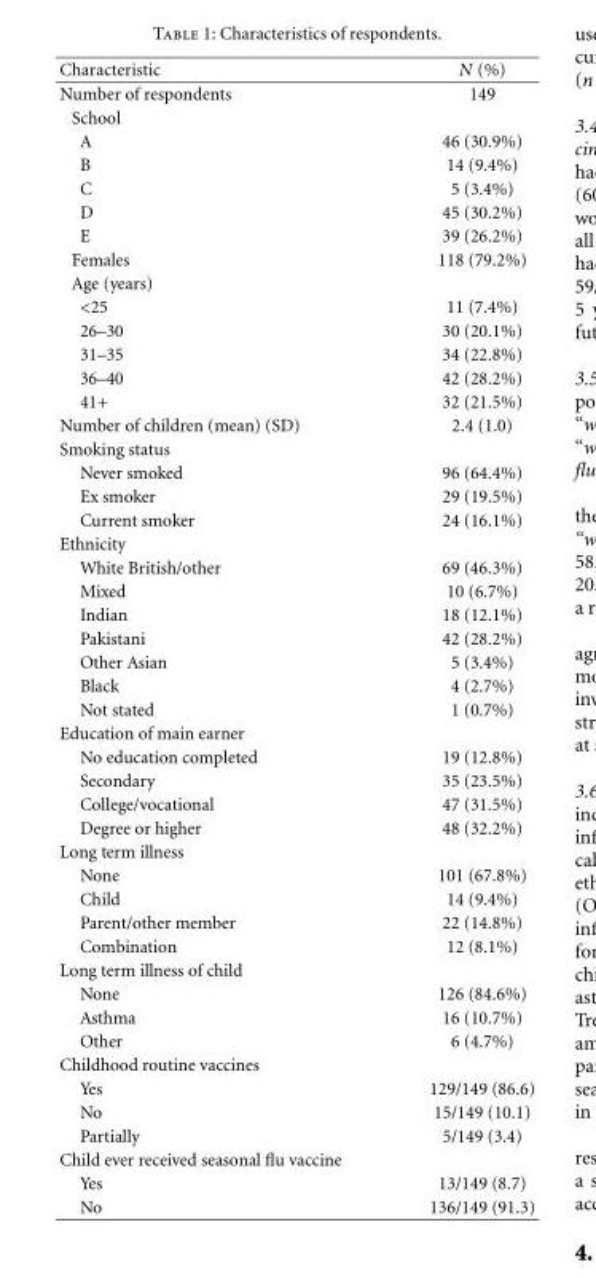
<table><thead><tr><td>Characteristic</td><td>N (%)</td></tr></thead><tbody><tr><td>Number of respondents</td><td>149</td></tr><tr><td colspan="2">School</td></tr><tr><td>A</td><td>46 (30.9%)</td></tr><tr><td>B</td><td>14 (9.4%)</td></tr><tr><td>C</td><td>5 (3.4%)</td></tr><tr><td>D</td><td>45 (30.2%)</td></tr><tr><td>E</td><td>39 (26.2%)</td></tr><tr><td>Females</td><td>118 (79.2%)</td></tr><tr><td colspan="2">Age (years)</td></tr><tr><td>&lt;25</td><td>11 (7.4%)</td></tr><tr><td>26–30</td><td>30 (20.1%)</td></tr><tr><td>31–35</td><td>34 (22.8%)</td></tr><tr><td>36–40</td><td>42 (28.2%)</td></tr><tr><td>41+</td><td>32 (21.5%)</td></tr><tr><td>Number of children (mean) (SD)</td><td>2.4 (1.0)</td></tr><tr><td colspan="2">Smoking status</td></tr><tr><td>Never smoked</td><td>96 (64.4%)</td></tr><tr><td>Ex smoker</td><td>29 (19.5%)</td></tr><tr><td>Current smoker</td><td>24 (16.1%)</td></tr><tr><td colspan="2">Ethnicity</td></tr><tr><td>White British/other</td><td>69 (46.3%)</td></tr><tr><td>Mixed</td><td>10 (6.7%)</td></tr><tr><td>Indian</td><td>18 (12.1%)</td></tr><tr><td>Pakistani</td><td>42 (28.2%)</td></tr><tr><td>Other Asian</td><td>5 (3.4%)</td></tr><tr><td>Black</td><td>4 (2.7%)</td></tr><tr><td>Not stated</td><td>1 (0.7%)</td></tr><tr><td colspan="2">Education of main earner</td></tr><tr><td>No education completed</td><td>19 (12.8%)</td></tr><tr><td>Secondary</td><td>35 (23.5%)</td></tr><tr><td>College/vocational</td><td>47 (31.5%)</td></tr><tr><td>Degree or higher</td><td>48 (32.2%)</td></tr><tr><td colspan="2">Long term illness</td></tr><tr><td>None</td><td>101 (67.8%)</td></tr><tr><td>Child</td><td>14 (9.4%)</td></tr><tr><td>Parent/other member</td><td>22 (14.8%)</td></tr><tr><td>Combination</td><td>12 (8.1%)</td></tr><tr><td colspan="2">Long term illness of child</td></tr><tr><td>None</td><td>126 (84.6%)</td></tr><tr><td>Asthma</td><td>16 (10.7%)</td></tr><tr><td>Other</td><td>6 (4.7%)</td></tr><tr><td colspan="2">Childhood routine vaccines</td></tr><tr><td>Yes</td><td>129/149 (86.6)</td></tr><tr><td>No</td><td>15/149 (10.1)</td></tr><tr><td>Partially</td><td>5/149 (3.4)</td></tr><tr><td colspan="2">Child ever received seasonal flu vaccine</td></tr><tr><td>Yes</td><td>13/149 (8.7)</td></tr><tr><td>No</td><td>136/149 (91.3)</td></tr></tbody></table>